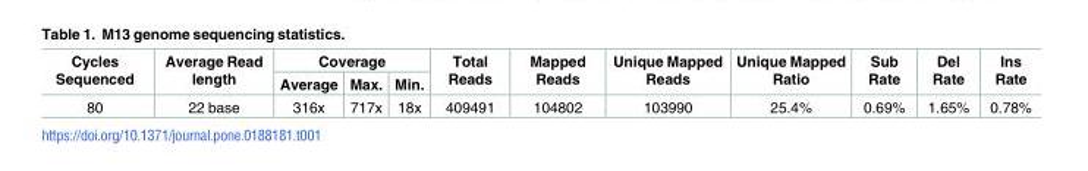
<table><thead><tr><td rowspan="2">Cycles Sequenced</td><td rowspan="2">Average Read length</td><td colspan="3">Coverage</td><td rowspan="2">Total Reads</td><td rowspan="2">Mapped Reads</td><td rowspan="2">Unique Mapped Reads</td><td rowspan="2">Unique Mapped Ratio</td><td rowspan="2">Sub Rate</td><td rowspan="2">Del Rate</td><td rowspan="2">Ins Rate</td></tr><tr><td>Average</td><td>Max.</td><td>Min.</td></tr></thead><tbody><tr><td>80</td><td>22 base</td><td>316x</td><td>717x</td><td>18x</td><td>409491</td><td>104802</td><td>103990</td><td>25.4%</td><td>0.69%</td><td>1.65%</td><td>0.78%</td></tr></tbody></table>